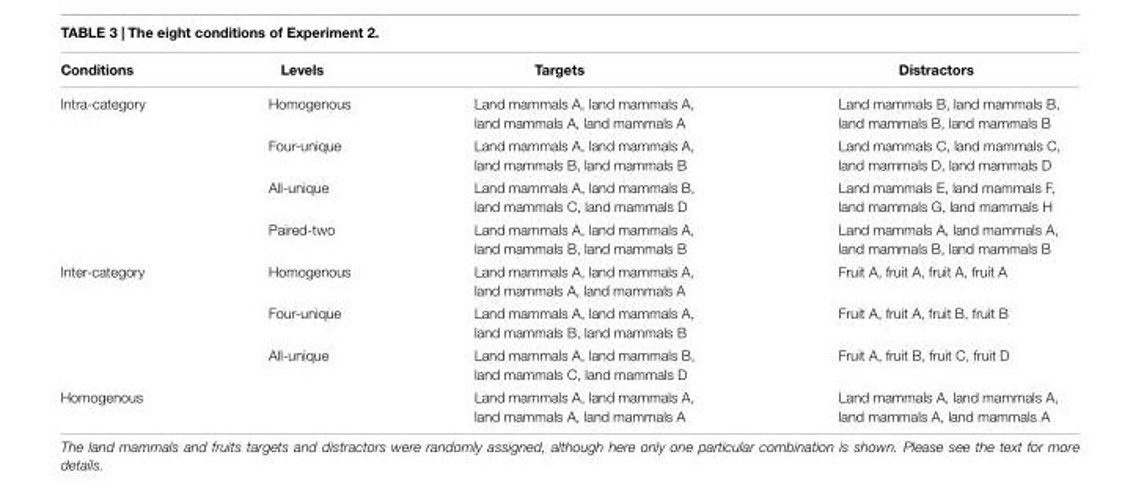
<table><thead><tr><td>Conditions</td><td>Levels</td><td>Targets</td><td>Distractors</td></tr></thead><tbody><tr><td rowspan="4">Intra-category</td><td>Homogenous</td><td>Land mammals A, land mammals A, land mammals A, land mammals A</td><td>Land mammals B, land mammals B, land mammals B, land mammals B</td></tr><tr><td>Four-unique</td><td>Land mammals A, land mammals A, land mammals B, land mammals B</td><td>Land mammals C, land mammals C, land mammals D, land mammals D</td></tr><tr><td>All-unique</td><td>Land mammals A, land mammals B, land mammals C, land mammals D</td><td>Land mammals E, land mammals F, land mammals G, land mammals H</td></tr><tr><td>Paired-two</td><td>Land mammals A, land mammals A, land mammals B, land mammals B</td><td>Land mammals A, land mammals A, land mammals B, land mammals B</td></tr><tr><td rowspan="3">Inter-category</td><td>Homogenous</td><td>Land mammals A, land mammals A, land mammals A, land mammals A</td><td>Fruit A, fruit A, fruit A, fruit A</td></tr><tr><td>Four-unique</td><td>Land mammals A, land mammals A, land mammals B, land mammals B</td><td>Fruit A, fruit A, fruit B, fruit B</td></tr><tr><td>All-unique</td><td>Land mammals A, land mammals B, land mammals C, land mammals D</td><td>Fruit A, fruit B, fruit C, fruit D</td></tr><tr><td>Homogenous</td><td></td><td>Land mammals A, land mammals A, land mammals A, land mammals A</td><td>Land mammals A, land mammals A, land mammals A, land mammals A</td></tr></tbody></table>